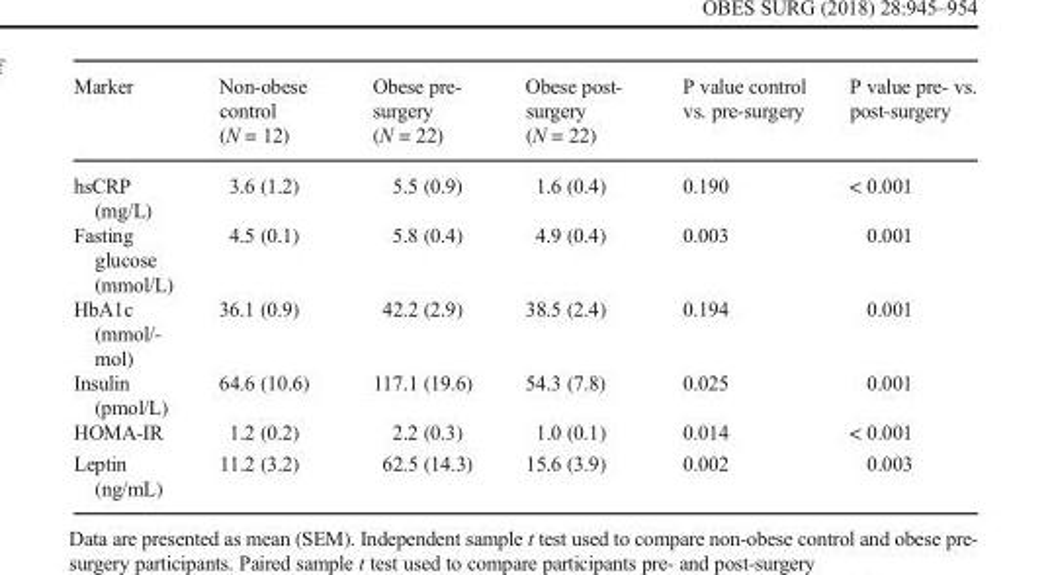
<table><thead><tr><td>Marker</td><td>Non-obese control (N = 12)</td><td>Obese pre- surgery (N = 22)</td><td>Obese post- surgery (N = 22)</td><td>P value control vs. pre-surgery</td><td>P value pre- vs. post-surgery</td></tr></thead><tbody><tr><td>hsCRP (mg/L)</td><td>3.6 (1.2)</td><td>5.5 (0.9)</td><td>1.6 (0.4)</td><td>0.190</td><td>&lt; 0.001</td></tr><tr><td>Fasting glucose (mmol/L)</td><td>4.5 (0.1)</td><td>5.8 (0.4)</td><td>4.9 (0.4)</td><td>0.003</td><td>0.001</td></tr><tr><td>HbA1c (mmol/- mol)</td><td>36.1 (0.9)</td><td>42.2 (2.9)</td><td>38.5 (2.4)</td><td>0.194</td><td>0.001</td></tr><tr><td>Insulin (pmol/L)</td><td>64.6 (10.6)</td><td>117.1 (19.6)</td><td>54.3 (7.8)</td><td>0.025</td><td>0.001</td></tr><tr><td>HOMA-IR</td><td>1.2 (0.2)</td><td>2.2 (0.3)</td><td>1.0 (0.1)</td><td>0.014</td><td>&lt; 0.001</td></tr><tr><td>Leptin (ng/mL)</td><td>11.2 (3.2)</td><td>62.5 (14.3)</td><td>15.6 (3.9)</td><td>0.002</td><td>0.003</td></tr></tbody></table>